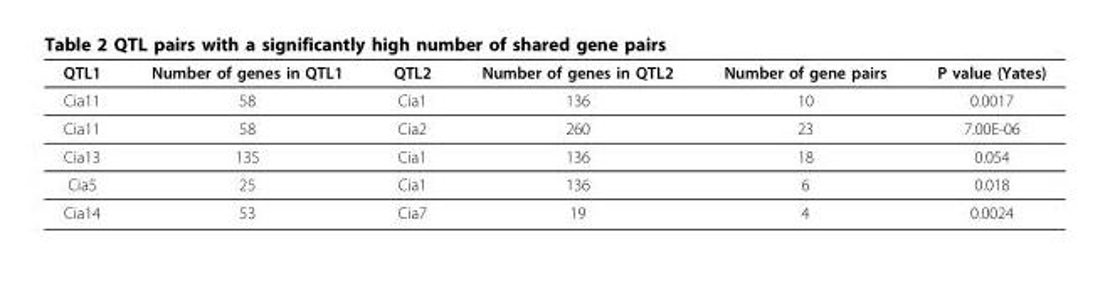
<table><thead><tr><td>QTL1</td><td>Number of genes in QTL1</td><td>QTL2</td><td>Number of genes in QTL2</td><td>Number of gene pairs</td><td>P value (Yates)</td></tr></thead><tbody><tr><td>Cia11</td><td>58</td><td>Cia1</td><td>136</td><td>10</td><td>0.0017</td></tr><tr><td>Cia11</td><td>58</td><td>Cia2</td><td>260</td><td>23</td><td>7.00E-06</td></tr><tr><td>Cia13</td><td>135</td><td>Cia1</td><td>136</td><td>18</td><td>0.054</td></tr><tr><td>Cia5</td><td>25</td><td>Cia1</td><td>136</td><td>6</td><td>0.018</td></tr><tr><td>Cia14</td><td>53</td><td>Cia7</td><td>19</td><td>4</td><td>0.0024</td></tr></tbody></table>